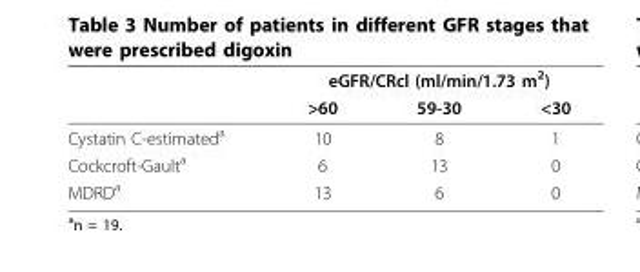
<table><thead><tr><td rowspan="2"></td><td colspan="3">eGFR/CRcl (ml/min/1.73 m<sup>2</sup>)</td></tr><tr><td>&gt;60</td><td>59-30</td><td>&lt;30</td></tr></thead><tbody><tr><td>Cystatin C-estimated<sup>a</sup></td><td>10</td><td>8</td><td>1</td></tr><tr><td>Cockcroft-Gault<sup>a</sup></td><td>6</td><td>13</td><td>0</td></tr><tr><td>MDRD<sup>a</sup></td><td>13</td><td>6</td><td>0</td></tr></tbody></table>